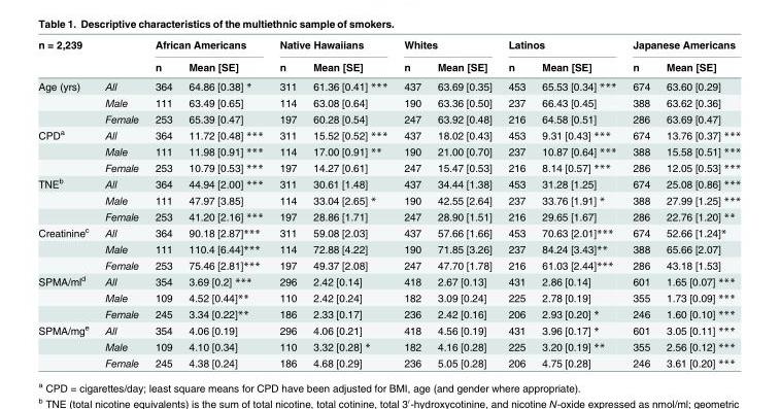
<table><thead><tr><td rowspan="2" colspan="2">n = 2,239</td><td colspan="2">African Americans</td><td colspan="2">Native Hawaiians</td><td colspan="2">Whites</td><td colspan="2">Latinos</td><td colspan="2">Japanese Americans</td></tr><tr><td rowspan="2">n 364</td><td rowspan="2">Mean [SE] 64.86 [0.38] *</td><td rowspan="2">n 311</td><td rowspan="2">Mean [SE] 61.36 [0.41] ***</td><td rowspan="2">n 437</td><td rowspan="2">Mean [SE] 63.69 [0.35]</td><td rowspan="2">n 453</td><td rowspan="2">Mean [SE] 65.53 [0.34] ***</td><td rowspan="2">n 674</td><td rowspan="2">Mean [SE] 63.60 [0.29]</td></tr><tr><td>Age (yrs)</td><td>All</td></tr></thead><tbody><tr><td></td><td>Male</td><td>111</td><td>63.49 [0.65]</td><td>114</td><td>63.08 [0.64]</td><td>190</td><td>63.36 [0.50]</td><td>237</td><td>66.43 [0.45]</td><td>388</td><td>63.62 [0.36]</td></tr><tr><td></td><td>Female</td><td>253</td><td>65.39 [0.47]</td><td>197</td><td>60.28 [0.54]</td><td>247</td><td>63.92 [0.48]</td><td>216</td><td>64.58 [0.51]</td><td>286</td><td>63.69 [0.47]</td></tr><tr><td rowspan="3">CPD<sup>a</sup></td><td>All</td><td>364</td><td>11.72 [0.48] ***</td><td>311</td><td>15.52 [0.52] ***</td><td>437</td><td>18.02 [0.43]</td><td>453</td><td>9.31 [0.43] ***</td><td>674</td><td>13.76 [0.37] ***</td></tr><tr><td>Male</td><td>111</td><td>11.98 [0.91] ***</td><td>114</td><td>17.00 [0.91] **</td><td>190</td><td>21.00 [0.70]</td><td>237</td><td>10.87 [0.64] ***</td><td>388</td><td>15.58 [0.51] ***</td></tr><tr><td>Female</td><td>253</td><td>10.79 [0.53] ***</td><td>197</td><td>14.27 [0.61]</td><td>247</td><td>15.47 [0.53]</td><td>216</td><td>8.14 [0.57] ***</td><td>286</td><td>12.05 [0.53] ***</td></tr><tr><td rowspan="3">TNE<sup>b</sup></td><td>All</td><td>364</td><td>44.94 [2.00] ***</td><td>311</td><td>30.61 [1.48]</td><td>437</td><td>34.44 [1.38]</td><td>453</td><td>31.28 [1.25]</td><td>674</td><td>25.08 [0.86] ***</td></tr><tr><td>Male</td><td>111</td><td>47.97 [3.85]</td><td>114</td><td>33.04 [2.65] *</td><td>190</td><td>42.55 [2.64]</td><td>237</td><td>33.76 [1.91] *</td><td>388</td><td>27.99 [1.25] ***</td></tr><tr><td>Female</td><td>253</td><td>41.20 [2.16] ***</td><td>197</td><td>28.86 [1.71]</td><td>247</td><td>28.90 [1.51]</td><td>216</td><td>29.65 [1.67]</td><td>286</td><td>22.76 [1.20] **</td></tr><tr><td rowspan="3">Creatinine<sup>c</sup></td><td>All</td><td>364</td><td>90.18 [2.87]***</td><td>311</td><td>59.08 [2.03]</td><td>437</td><td>57.66 [1.66]</td><td>453</td><td>70.63 [2.01]***</td><td>674</td><td>52.66 [1.24]*</td></tr><tr><td>Male</td><td>111</td><td>110.4 [6.44]***</td><td>114</td><td>72.88 [4.22]</td><td>190</td><td>71.85 [3.26]</td><td>237</td><td>84.24 [3.43]**</td><td>388</td><td>65.66 [2.07]</td></tr><tr><td>Female</td><td>253</td><td>75.46 [2.81]***</td><td>197</td><td>49.37 [2.08]</td><td>247</td><td>47.70 [1.78]</td><td>216</td><td>61.03 [2.44]***</td><td>286</td><td>43.18 [1.53]</td></tr><tr><td rowspan="3">SPMA/ml<sup>d</sup></td><td>All</td><td>354</td><td>3.69 [0.2] ***</td><td>296</td><td>2.42 [0.14]</td><td>418</td><td>2.67 [0.13]</td><td>431</td><td>2.86 [0.14]</td><td>601</td><td>1.65 [0.07] ***</td></tr><tr><td>Male</td><td>109</td><td>4.52 [0.44]**</td><td>110</td><td>2.42 [0.24]</td><td>182</td><td>3.09 [0.24]</td><td>225</td><td>2.78 [0.19]</td><td>355</td><td>1.73 [0.09] ***</td></tr><tr><td>Female</td><td>245</td><td>3.34 [0.22]**</td><td>186</td><td>2.33 [0.17]</td><td>236</td><td>2.42 [0.16]</td><td>206</td><td>2.93 [0.20] *</td><td>246</td><td>1.60 [0.10] ***</td></tr><tr><td rowspan="3">SPMA/mg<sup>e</sup></td><td>All</td><td>354</td><td>4.06 [0.19]</td><td>296</td><td>4.06 [0.21]</td><td>418</td><td>4.56 [0.19]</td><td>431</td><td>3.96 [0.17] *</td><td>601</td><td>3.05 [0.11] ***</td></tr><tr><td>Male</td><td>109</td><td>4.10 [0.34]</td><td>110</td><td>3.32 [0.28] *</td><td>182</td><td>4.16 [0.28]</td><td>225</td><td>3.20 [0.19] **</td><td>355</td><td>2.56 [0.12] ***</td></tr><tr><td>Female</td><td>245</td><td>4.38 [0.24]</td><td>186</td><td>4.68 [0.29]</td><td>236</td><td>5.05 [0.28]</td><td>206</td><td>4.75 [0.28]</td><td>246</td><td>3.61 [0.20] ***</td></tr></tbody></table>